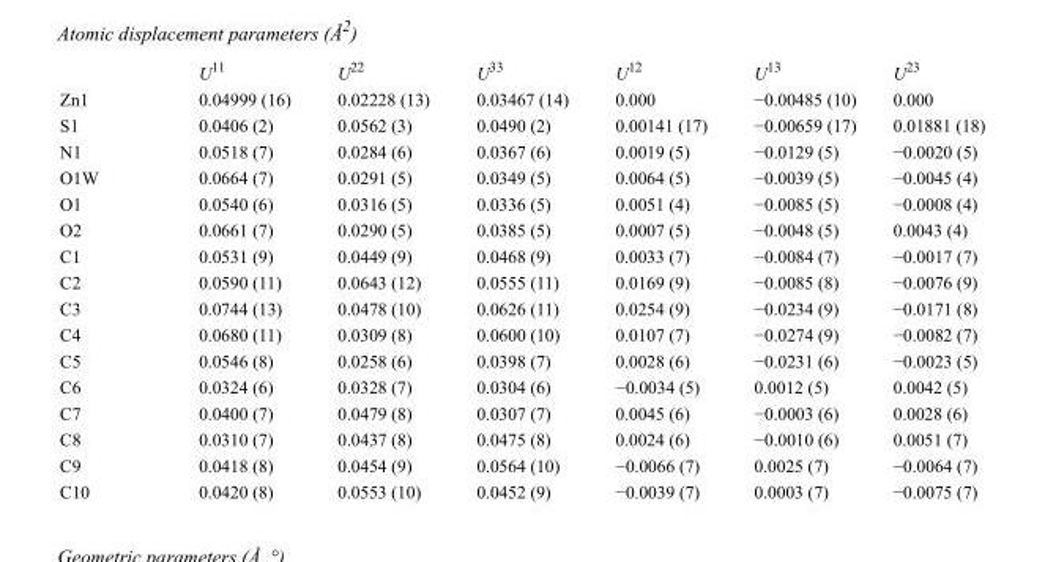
<table><thead><tr><td></td><td>U<sup>11</sup></td><td>U<sup>22</sup></td><td>U<sup>33</sup></td><td>U<sup>12</sup></td><td>U<sup>13</sup></td><td>U<sup>23</sup></td></tr></thead><tbody><tr><td>Zn1</td><td>0.04999 (16)</td><td>0.02228 (13)</td><td>0.03467 (14)</td><td>0.000</td><td>−0.00485 (10)</td><td>0.000</td></tr><tr><td>S1</td><td>0.0406 (2)</td><td>0.0562 (3)</td><td>0.0490 (2)</td><td>0.00141 (17)</td><td>−0.00659 (17)</td><td>0.01881 (18)</td></tr><tr><td>N1</td><td>0.0518 (7)</td><td>0.0284 (6)</td><td>0.0367 (6)</td><td>0.0019 (5)</td><td>−0.0129 (5)</td><td>−0.0020 (5)</td></tr><tr><td>O1W</td><td>0.0664 (7)</td><td>0.0291 (5)</td><td>0.0349 (5)</td><td>0.0064 (5)</td><td>−0.0039 (5)</td><td>−0.0045 (4)</td></tr><tr><td>O1</td><td>0.0540 (6)</td><td>0.0316 (5)</td><td>0.0336 (5)</td><td>0.0051 (4)</td><td>−0.0085 (5)</td><td>−0.0008 (4)</td></tr><tr><td>O2</td><td>0.0661 (7)</td><td>0.0290 (5)</td><td>0.0385 (5)</td><td>0.0007 (5)</td><td>−0.0048 (5)</td><td>0.0043 (4)</td></tr><tr><td>C1</td><td>0.0531 (9)</td><td>0.0449 (9)</td><td>0.0468 (9)</td><td>0.0033 (7)</td><td>−0.0084 (7)</td><td>−0.0017 (7)</td></tr><tr><td>C2</td><td>0.0590 (11)</td><td>0.0643 (12)</td><td>0.0555 (11)</td><td>0.0169 (9)</td><td>−0.0085 (8)</td><td>−0.0076 (9)</td></tr><tr><td>C3</td><td>0.0744 (13)</td><td>0.0478 (10)</td><td>0.0626 (11)</td><td>0.0254 (9)</td><td>−0.0234 (9)</td><td>−0.0171 (8)</td></tr><tr><td>C4</td><td>0.0680 (11)</td><td>0.0309 (8)</td><td>0.0600 (10)</td><td>0.0107 (7)</td><td>−0.0274 (9)</td><td>−0.0082 (7)</td></tr><tr><td>C5</td><td>0.0546 (8)</td><td>0.0258 (6)</td><td>0.0398 (7)</td><td>0.0028 (6)</td><td>−0.0231 (6)</td><td>−0.0023 (5)</td></tr><tr><td>C6</td><td>0.0324 (6)</td><td>0.0328 (7)</td><td>0.0304 (6)</td><td>−0.0034 (5)</td><td>0.0012 (5)</td><td>0.0042 (5)</td></tr><tr><td>C7</td><td>0.0400 (7)</td><td>0.0479 (8)</td><td>0.0307 (7)</td><td>0.0045 (6)</td><td>−0.0003 (6)</td><td>0.0028 (6)</td></tr><tr><td>C8</td><td>0.0310 (7)</td><td>0.0437 (8)</td><td>0.0475 (8)</td><td>0.0024 (6)</td><td>−0.0010 (6)</td><td>0.0051 (7)</td></tr><tr><td>C9</td><td>0.0418 (8)</td><td>0.0454 (9)</td><td>0.0564 (10)</td><td>−0.0066 (7)</td><td>0.0025 (7)</td><td>−0.0064 (7)</td></tr><tr><td>C10</td><td>0.0420 (8)</td><td>0.0553 (10)</td><td>0.0452 (9)</td><td>−0.0039 (7)</td><td>0.0003 (7)</td><td>−0.0075 (7)</td></tr></tbody></table>